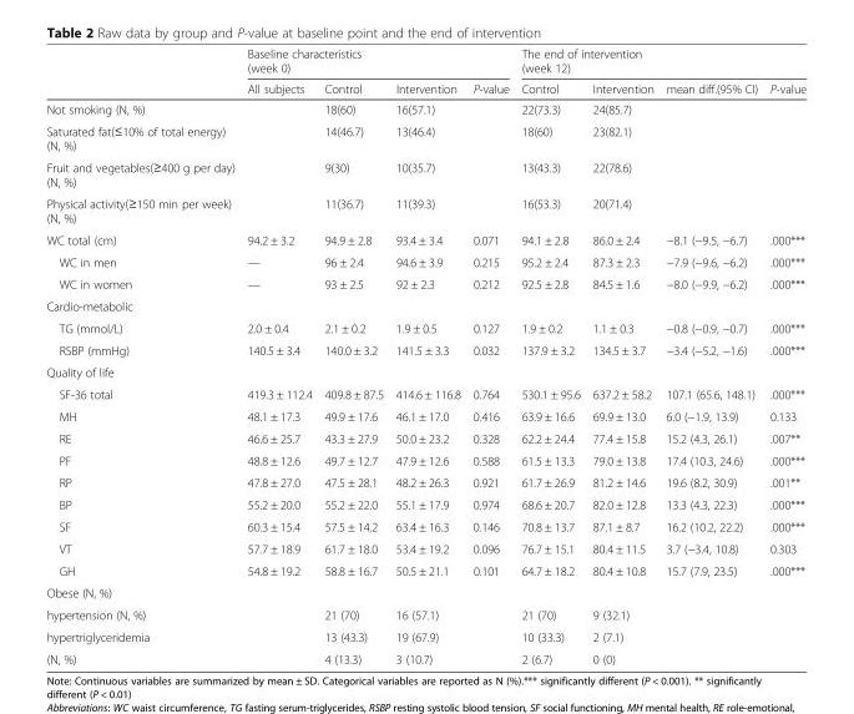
<table><thead><tr><td rowspan="3"></td><td rowspan="2" colspan="4">Baseline characteristics (week 0)</td><td rowspan="2" colspan="4">The end of intervention (week 12)</td></tr><tr></tr><tr><td>All subjects</td><td>Control</td><td>Intervention</td><td>P-value</td><td>Control</td><td>Intervention</td><td>mean diff.(95% CI)</td><td>P-value</td></tr></thead><tbody><tr><td>Not smoking (N, %)</td><td></td><td>18(60)</td><td>16(57.1)</td><td></td><td>22(73.3)</td><td>24(85.7)</td><td></td><td></td></tr><tr><td>Saturated fat(≤10% of total energy) (N, %)</td><td></td><td>14(46.7)</td><td>13(46.4)</td><td></td><td>18(60)</td><td>23(82.1)</td><td></td><td></td></tr><tr><td>Fruit and vegetables(≥400 g per day) (N, %)</td><td></td><td>9(30)</td><td>10(35.7)</td><td></td><td>13(43.3)</td><td>22(78.6)</td><td></td><td></td></tr><tr><td>Physical activity(≥150 min per week) (N, %)</td><td></td><td>11(36.7)</td><td>11(39.3)</td><td></td><td>16(53.3)</td><td>20(71.4)</td><td></td><td></td></tr><tr><td>WC total (cm)</td><td>94.2 ± 3.2</td><td>94.9 ± 2.8</td><td>93.4 ± 3.4</td><td>0.071</td><td>94.1 ± 2.8</td><td>86.0 ± 2.4</td><td>−8.1 (−9.5, −6.7)</td><td>.000***</td></tr><tr><td>WC in men</td><td>—</td><td>96 ± 2.4</td><td>94.6 ± 3.9</td><td>0.215</td><td>95.2 ± 2.4</td><td>87.3 ± 2.3</td><td>−7.9 (−9.6, −6.2)</td><td>.000***</td></tr><tr><td>WC in women</td><td>—</td><td>93 ± 2.5</td><td>92 ± 2.3</td><td>0.212</td><td>92.5 ± 2.8</td><td>84.5 ± 1.6</td><td>−8.0 (−9.9, −6.2)</td><td>.000***</td></tr><tr><td colspan="9">Cardio-metabolic</td></tr><tr><td>TG (mmol/L)</td><td>2.0 ± 0.4</td><td>2.1 ± 0.2</td><td>1.9 ± 0.5</td><td>0.127</td><td>1.9 ± 0.2</td><td>1.1 ± 0.3</td><td>−0.8 (−0.9, −0.7)</td><td>.000***</td></tr><tr><td>RSBP (mmHg)</td><td>140.5 ± 3.4</td><td>140.0 ± 3.2</td><td>141.5 ± 3.3</td><td>0.032</td><td>137.9 ± 3.2</td><td>134.5 ± 3.7</td><td>−3.4 (−5.2, −1.6)</td><td>.000***</td></tr><tr><td colspan="9">Quality of life</td></tr><tr><td>SF-36 total</td><td>419.3 ± 112.4</td><td>409.8 ± 87.5</td><td>414.6 ± 116.8</td><td>0.764</td><td>530.1 ± 95.6</td><td>637.2 ± 58.2</td><td>107.1 (65.6, 148.1)</td><td>.000***</td></tr><tr><td>MH</td><td>48.1 ± 17.3</td><td>49.9 ± 17.6</td><td>46.1 ± 17.0</td><td>0.416</td><td>63.9 ± 16.6</td><td>69.9 ± 13.0</td><td>6.0 (−1.9, 13.9)</td><td>0.133</td></tr><tr><td>RE</td><td>46.6 ± 25.7</td><td>43.3 ± 27.9</td><td>50.0 ± 23.2</td><td>0.328</td><td>62.2 ± 24.4</td><td>77.4 ± 15.8</td><td>15.2 (4.3, 26.1)</td><td>.007**</td></tr><tr><td>PF</td><td>48.8 ± 12.6</td><td>49.7 ± 12.7</td><td>47.9 ± 12.6</td><td>0.588</td><td>61.5 ± 13.3</td><td>79.0 ± 13.8</td><td>17.4 (10.3, 24.6)</td><td>.000***</td></tr><tr><td>RP</td><td>47.8 ± 27.0</td><td>47.5 ± 28.1</td><td>48.2 ± 26.3</td><td>0.921</td><td>61.7 ± 26.9</td><td>81.2 ± 14.6</td><td>19.6 (8.2, 30.9)</td><td>.001**</td></tr><tr><td>BP</td><td>55.2 ± 20.0</td><td>55.2 ± 22.0</td><td>55.1 ± 17.9</td><td>0.974</td><td>68.6 ± 20.7</td><td>82.0 ± 12.8</td><td>13.3 (4.3, 22.3)</td><td>.000***</td></tr><tr><td>SF</td><td>60.3 ± 15.4</td><td>57.5 ± 14.2</td><td>63.4 ± 16.3</td><td>0.146</td><td>70.8 ± 13.7</td><td>87.1 ± 8.7</td><td>16.2 (10.2, 22.2)</td><td>.000***</td></tr><tr><td>VT</td><td>57.7 ± 18.9</td><td>61.7 ± 18.0</td><td>53.4 ± 19.2</td><td>0.096</td><td>76.7 ± 15.1</td><td>80.4 ± 11.5</td><td>3.7 (−3.4, 10.8)</td><td>0.303</td></tr><tr><td>GH</td><td>54.8 ± 19.2</td><td>58.8 ± 16.7</td><td>50.5 ± 21.1</td><td>0.101</td><td>64.7 ± 18.2</td><td>80.4 ± 10.8</td><td>15.7 (7.9, 23.5)</td><td>.000***</td></tr><tr><td colspan="9">Obese (N, %)</td></tr><tr><td>hypertension (N, %)</td><td></td><td>21 (70)</td><td>16 (57.1)</td><td></td><td>21 (70)</td><td>9 (32.1)</td><td></td><td></td></tr><tr><td>hypertriglyceridemia</td><td></td><td>13 (43.3)</td><td>19 (67.9)</td><td></td><td>10 (33.3)</td><td>2 (7.1)</td><td></td><td></td></tr><tr><td>(N, %)</td><td></td><td>4 (13.3)</td><td>3 (10.7)</td><td></td><td>2 (6.7)</td><td>0 (0)</td><td></td><td></td></tr></tbody></table>